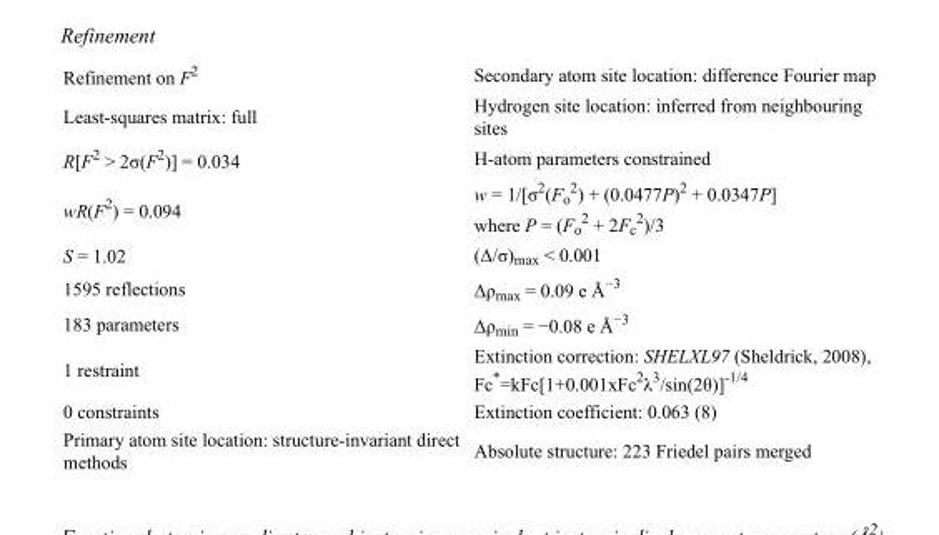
<table><tbody><tr><td>Refinement on F<sup>2</sup></td><td>Secondary atom site location: difference Fourier map</td></tr><tr><td>Least-squares matrix: full</td><td>Hydrogen site location: inferred from neighbouring sites</td></tr><tr><td>R[F<sup>2</sup> &gt; 2σ(F<sup>2</sup>)] = 0.034</td><td>H-atom parameters constrained</td></tr><tr><td>wR(F<sup>2</sup>) = 0.094</td><td>w = 1/[σ<sup>2</sup>(F<sub>o</sub> <sup>2</sup>) + (0.0477P)<sup>2</sup> + 0.0347P] where P = (F<sub>o</sub> <sup>2</sup> + 2F<sub>c</sub> <sup>2</sup>)/3</td></tr><tr><td>S = 1.02</td><td>(Δ/σ)<sub>max</sub> &lt; 0.001</td></tr><tr><td>1595 reflections</td><td>Δρ<sub>max</sub> = 0.09 e Å<sup>−3</sup></td></tr><tr><td>183 parameters</td><td>Δρ<sub>min</sub> = −0.08 e Å<sup>−3</sup></td></tr><tr><td>1 restraint</td><td>Extinction correction: SHELXL97 (Sheldrick, 2008), Fc*=kFc[1+0.001xFc<sup>2</sup>λ<sup>3</sup>/sin(2θ)]<sup>-1/4</sup></td></tr><tr><td>0 constraints</td><td>Extinction coefficient: 0.063 (8)</td></tr><tr><td>Primary atom site location: structure-invariant direct methods</td><td>Absolute structure: 223 Friedel pairs merged</td></tr></tbody></table>